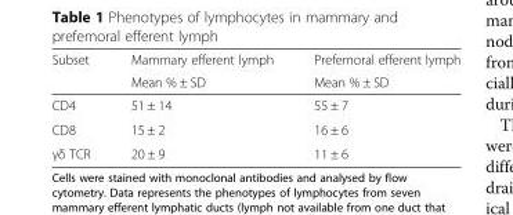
<table><thead><tr><td rowspan="2">Subset</td><td rowspan="2">Mammary efferent lymph Mean % ± SD</td><td rowspan="2">Prefemoral efferent lymph Mean % ± SD</td></tr><tr></tr></thead><tbody><tr><td>CD4</td><td>51 ± 14</td><td>55 ± 7</td></tr><tr><td>CD8</td><td>15 ± 2</td><td>16 ± 6</td></tr><tr><td>γδ TCR</td><td>20 ± 9</td><td>11 ± 6</td></tr></tbody></table>